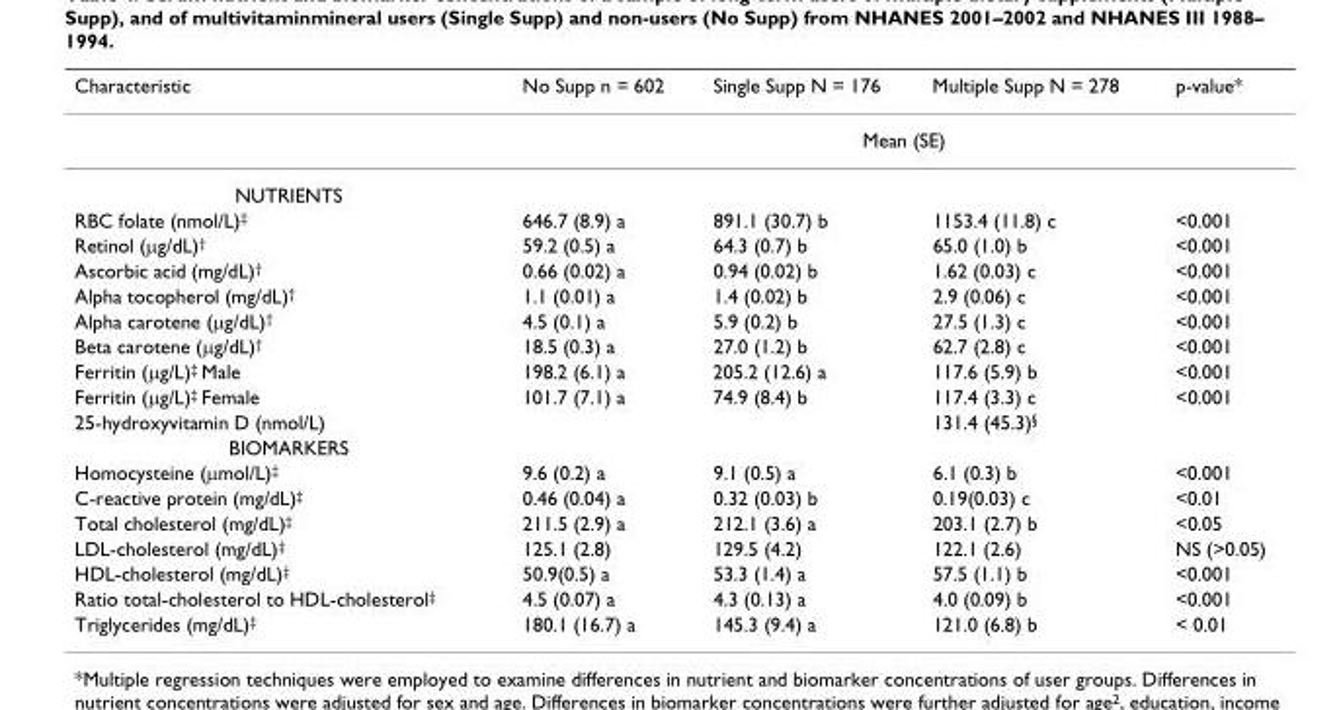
<table><thead><tr><td>Characteristic</td><td>No Supp n = 602</td><td>Single Supp N = 176</td><td>Multiple Supp N = 278</td><td>p-value*</td></tr></thead><tbody><tr><td></td><td colspan="4">Mean (SE)</td></tr><tr><td colspan="5">NUTRIENTS</td></tr><tr><td>RBC folate (nmol/L)<sup>‡</sup></td><td>646.7 (8.9) a</td><td>891.1 (30.7) b</td><td>1153.4 (11.8) c</td><td>&lt;0.001</td></tr><tr><td>Retinol (µg/dL)<sup>†</sup></td><td>59.2 (0.5) a</td><td>64.3 (0.7) b</td><td>65.0 (1.0) b</td><td>&lt;0.001</td></tr><tr><td>Ascorbic acid (mg/dL)<sup>†</sup></td><td>0.66 (0.02) a</td><td>0.94 (0.02) b</td><td>1.62 (0.03) c</td><td>&lt;0.001</td></tr><tr><td>Alpha tocopherol (mg/dL)<sup>†</sup></td><td>1.1 (0.01) a</td><td>1.4 (0.02) b</td><td>2.9 (0.06) c</td><td>&lt;0.001</td></tr><tr><td>Alpha carotene (µg/dL)<sup>†</sup></td><td>4.5 (0.1) a</td><td>5.9 (0.2) b</td><td>27.5 (1.3) c</td><td>&lt;0.001</td></tr><tr><td>Beta carotene (µg/dL)<sup>†</sup></td><td>18.5 (0.3) a</td><td>27.0 (1.2) b</td><td>62.7 (2.8) c</td><td>&lt;0.001</td></tr><tr><td>Ferritin (µg/L)<sup>‡</sup> Male</td><td>198.2 (6.1) a</td><td>205.2 (12.6) a</td><td>117.6 (5.9) b</td><td>&lt;0.001</td></tr><tr><td>Ferritin (µg/L)<sup>‡</sup> Female</td><td>101.7 (7.1) a</td><td>74.9 (8.4) b</td><td>117.4 (3.3) c</td><td>&lt;0.001</td></tr><tr><td>25-hydroxyvitamin D (nmol/L)</td><td></td><td></td><td>131.4 (45.3)<sup>§</sup></td><td></td></tr><tr><td colspan="5">BIOMARKERS</td></tr><tr><td>Homocysteine (µmol/L)<sup>‡</sup></td><td>9.6 (0.2) a</td><td>9.1 (0.5) a</td><td>6.1 (0.3) b</td><td>&lt;0.001</td></tr><tr><td>C-reactive protein (mg/dL)<sup>‡</sup></td><td>0.46 (0.04) a</td><td>0.32 (0.03) b</td><td>0.19(0.03) c</td><td>&lt;0.01</td></tr><tr><td>Total cholesterol (mg/dL)<sup>‡</sup></td><td>211.5 (2.9) a</td><td>212.1 (3.6) a</td><td>203.1 (2.7) b</td><td>&lt;0.05</td></tr><tr><td>LDL-cholesterol (mg/dL)<sup>‡</sup></td><td>125.1 (2.8)</td><td>129.5 (4.2)</td><td>122.1 (2.6)</td><td>NS (&gt;0.05)</td></tr><tr><td>HDL-cholesterol (mg/dL)<sup>‡</sup></td><td>50.9(0.5) a</td><td>53.3 (1.4) a</td><td>57.5 (1.1) b</td><td>&lt;0.001</td></tr><tr><td>Ratio total-cholesterol to HDL-cholesterol<sup>‡</sup></td><td>4.5 (0.07) a</td><td>4.3 (0.13) a</td><td>4.0 (0.09) b</td><td>&lt;0.001</td></tr><tr><td>Triglycerides (mg/dL)<sup>‡</sup></td><td>180.1 (16.7) a</td><td>145.3 (9.4) a</td><td>121.0 (6.8) b</td><td>&lt; 0.01</td></tr></tbody></table>